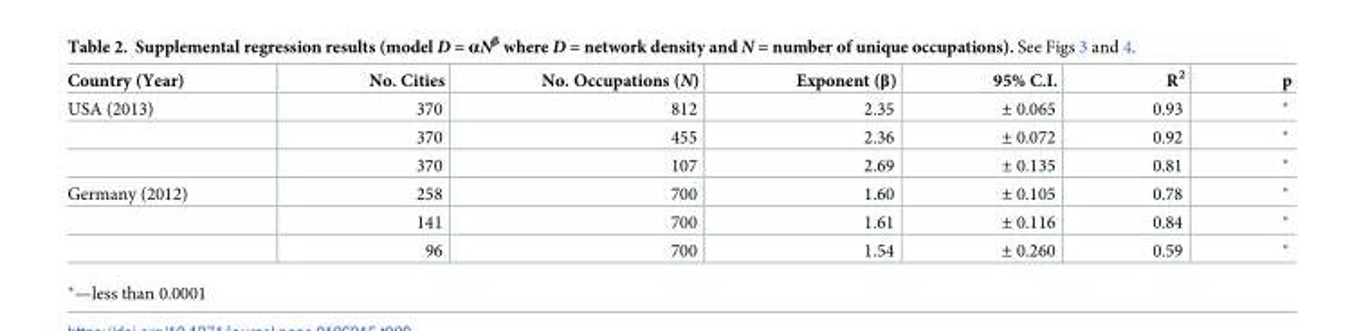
<table><thead><tr><td>Country (Year)</td><td>No. Cities</td><td>No. Occupations (N)</td><td>Exponent (β)</td><td>95% C.I.</td><td>R<sup>2</sup></td><td>p</td></tr></thead><tbody><tr><td rowspan="3">USA (2013)</td><td>370</td><td>812</td><td>2.35</td><td>± 0.065</td><td>0.93</td><td>*</td></tr><tr><td>370</td><td>455</td><td>2.36</td><td>± 0.072</td><td>0.92</td><td>*</td></tr><tr><td>370</td><td>107</td><td>2.69</td><td>± 0.135</td><td>0.81</td><td>*</td></tr><tr><td rowspan="3">Germany (2012)</td><td>258</td><td>700</td><td>1.60</td><td>± 0.105</td><td>0.78</td><td>*</td></tr><tr><td>141</td><td>700</td><td>1.61</td><td>± 0.116</td><td>0.84</td><td>*</td></tr><tr><td>96</td><td>700</td><td>1.54</td><td>± 0.260</td><td>0.59</td><td>*</td></tr></tbody></table>